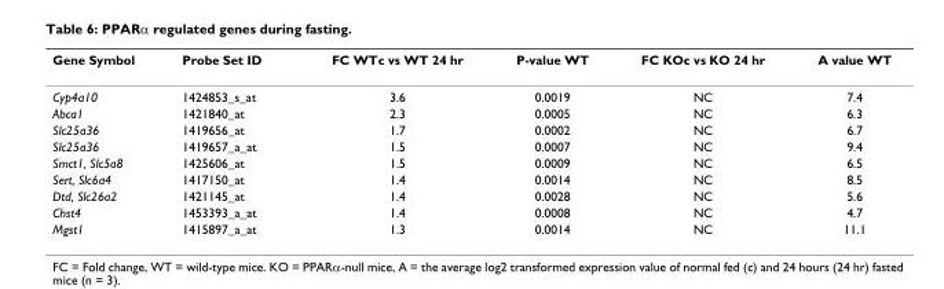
<table><thead><tr><td>Gene Symbol</td><td>Probe Set ID</td><td>FC WTc vs WT 24 hr</td><td>P-value WT</td><td>FC KOc vs KO 24 hr</td><td>A value WT</td></tr></thead><tbody><tr><td>Cyp4a10</td><td>1424853_s_at</td><td>3.6</td><td>0.0019</td><td>NC</td><td>7.4</td></tr><tr><td>Abca1</td><td>1421840_at</td><td>2.3</td><td>0.0005</td><td>NC</td><td>6.3</td></tr><tr><td>Slc25a36</td><td>1419656_at</td><td>1.7</td><td>0.0002</td><td>NC</td><td>6.7</td></tr><tr><td>Slc25a36</td><td>1419657_a_at</td><td>1.5</td><td>0.0007</td><td>NC</td><td>9.4</td></tr><tr><td>Smct1, Slc5a8</td><td>1425606_at</td><td>1.5</td><td>0.0009</td><td>NC</td><td>6.5</td></tr><tr><td>Sert, Slc6a4</td><td>1417150_at</td><td>1.4</td><td>0.0014</td><td>NC</td><td>8.5</td></tr><tr><td>Dtd, Slc26a2</td><td>1421145_at</td><td>1.4</td><td>0.0028</td><td>NC</td><td>5.6</td></tr><tr><td>Chst4</td><td>1453393_a_at</td><td>1.4</td><td>0.0008</td><td>NC</td><td>4.7</td></tr><tr><td>Mgst1</td><td>1415897_a_at</td><td>1.3</td><td>0.0014</td><td>NC</td><td>11.1</td></tr></tbody></table>